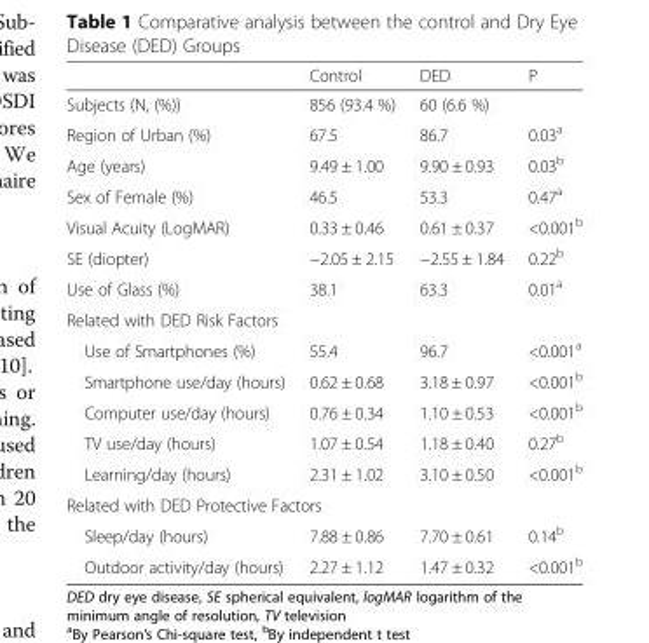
<table><thead><tr><td></td><td>Control</td><td>DED</td><td>P</td></tr></thead><tbody><tr><td>Subjects (N, (%))</td><td>856 (93.4 %)</td><td>60 (6.6 %)</td><td></td></tr><tr><td>Region of Urban (%)</td><td>67.5</td><td>86.7</td><td>0.03<sup>a</sup></td></tr><tr><td>Age (years)</td><td>9.49 ± 1.00</td><td>9.90 ± 0.93</td><td>0.03<sup>b</sup></td></tr><tr><td>Sex of Female (%)</td><td>46.5</td><td>53.3</td><td>0.47<sup>a</sup></td></tr><tr><td>Visual Acuity (LogMAR)</td><td>0.33 ± 0.46</td><td>0.61 ± 0.37</td><td>&lt;0.001<sup>b</sup></td></tr><tr><td>SE (diopter)</td><td>−2.05 ± 2.15</td><td>−2.55 ± 1.84</td><td>0.22<sup>b</sup></td></tr><tr><td>Use of Glass (%)</td><td>38.1</td><td>63.3</td><td>0.01<sup>a</sup></td></tr><tr><td colspan="4">Related with DED Risk Factors</td></tr><tr><td>Use of Smartphones (%)</td><td>55.4</td><td>96.7</td><td>&lt;0.001<sup>a</sup></td></tr><tr><td>Smartphone use/day (hours)</td><td>0.62 ± 0.68</td><td>3.18 ± 0.97</td><td>&lt;0.001<sup>b</sup></td></tr><tr><td>Computer use/day (hours)</td><td>0.76 ± 0.34</td><td>1.10 ± 0.53</td><td>&lt;0.001<sup>b</sup></td></tr><tr><td>TV use/day (hours)</td><td>1.07 ± 0.54</td><td>1.18 ± 0.40</td><td>0.27<sup>b</sup></td></tr><tr><td>Learning/day (hours)</td><td>2.31 ± 1.02</td><td>3.10 ± 0.50</td><td>&lt;0.001<sup>b</sup></td></tr><tr><td colspan="4">Related with DED Protective Factors</td></tr><tr><td>Sleep/day (hours)</td><td>7.88 ± 0.86</td><td>7.70 ± 0.61</td><td>0.14<sup>b</sup></td></tr><tr><td>Outdoor activity/day (hours)</td><td>2.27 ± 1.12</td><td>1.47 ± 0.32</td><td>&lt;0.001<sup>b</sup></td></tr></tbody></table>